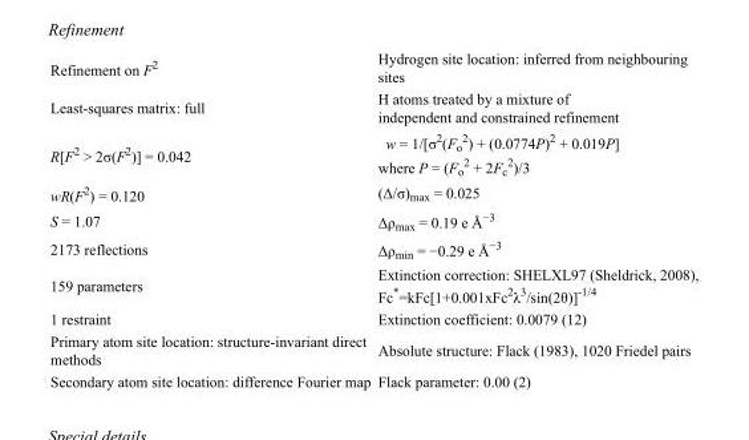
<table><tbody><tr><td>Refinement on F<sup>2</sup></td><td>Hydrogen site location: inferred from neighbouring sites</td></tr><tr><td>Least-squares matrix: full</td><td>H atoms treated by a mixture of independent and constrained refinement</td></tr><tr><td>R[F<sup>2</sup> &gt; 2σ(F<sup>2</sup>)] = 0.042</td><td>w = 1/[σ<sup>2</sup>(F<sub>o</sub> <sup>2</sup>) + (0.0774P)<sup>2</sup> + 0.019P] where P = (F<sub>o</sub> <sup>2</sup> + 2F<sub>c</sub> <sup>2</sup>)/3</td></tr><tr><td>wR(F<sup>2</sup>) = 0.120</td><td>(Δ/σ)<sub>max</sub> = 0.025</td></tr><tr><td>S = 1.07</td><td>Δρ<sub>max</sub> = 0.19 e Å<sup>−3</sup></td></tr><tr><td>2173 reflections</td><td>Δρ<sub>min</sub> = −0.29 e Å<sup>−3</sup></td></tr><tr><td>159 parameters</td><td>Extinction correction: SHELXL97 (Sheldrick, 2008), Fc*=kFc[1+0.001xFc<sup>2</sup>λ<sup>3</sup>/sin(2θ)]<sup>-1/4</sup></td></tr><tr><td>1 restraint</td><td>Extinction coefficient: 0.0079 (12)</td></tr><tr><td>Primary atom site location: structure-invariant direct methods</td><td>Absolute structure: Flack (1983), 1020 Friedel pairs</td></tr><tr><td>Secondary atom site location: difference Fourier map</td><td>Flack parameter: 0.00 (2)</td></tr></tbody></table>